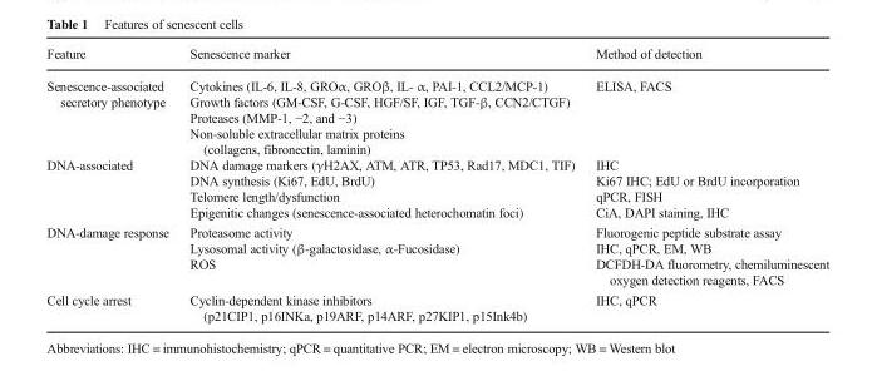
<table><thead><tr><td>Feature</td><td>Senescence marker</td><td>Method of detection</td></tr></thead><tbody><tr><td>Senescence-associated secretory phenotype</td><td>Cytokines (IL-6, IL-8, GROα, GROβ, IL- α, PAI-1, CCL2/MCP-1) Growth factors (GM-CSF, G-CSF, HGF/SF, IGF, TGF-β, CCN2/CTGF) Proteases (MMP-1, −2, and −3) Non-soluble extracellular matrix proteins (collagens, fibronectin, laminin)</td><td>ELISA, FACS</td></tr><tr><td>DNA-associated</td><td>DNA damage markers (γH2AX, ATM, ATR, TP53, Rad17, MDC1, TIF) DNA synthesis (Ki67, EdU, BrdU) Telomere length/dysfunction Epigenitic changes (senescence-associated heterochomatin foci)</td><td>IHC Ki67 IHC; EdU or BrdU incorporation qPCR, FISH CiA, DAPI staining, IHC</td></tr><tr><td>DNA-damage response</td><td>Proteasome activity Lysosomal activity (β-galactosidase, α-Fucosidase) ROS</td><td>Fluorogenic peptide substrate assay IHC, qPCR, EM, WB DCFDH-DA fluorometry, chemiluminescent oxygen detection reagents, FACS</td></tr><tr><td>Cell cycle arrest</td><td>Cyclin-dependent kinase inhibitors (p21CIP1, p16INKa, p19ARF, p14ARF, p27KIP1, p15Ink4b)</td><td>IHC, qPCR</td></tr></tbody></table>